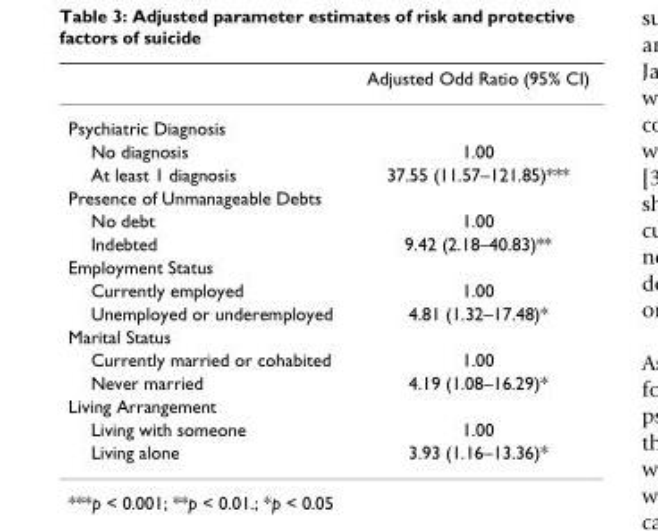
<table><thead><tr><td></td><td>Adjusted Odd Ratio (95% CI)</td></tr></thead><tbody><tr><td colspan="2">Psychiatric Diagnosis</td></tr><tr><td>No diagnosis</td><td>1.00</td></tr><tr><td>At least 1 diagnosis</td><td>37.55 (11.57–121.85)***</td></tr><tr><td colspan="2">Presence of Unmanageable Debts</td></tr><tr><td>No debt</td><td>1.00</td></tr><tr><td>Indebted</td><td>9.42 (2.18–40.83)**</td></tr><tr><td colspan="2">Employment Status</td></tr><tr><td>Currently employed</td><td>1.00</td></tr><tr><td>Unemployed or underemployed</td><td>4.81 (1.32–17.48)*</td></tr><tr><td colspan="2">Marital Status</td></tr><tr><td>Currently married or cohabited</td><td>1.00</td></tr><tr><td>Never married</td><td>4.19 (1.08–16.29)*</td></tr><tr><td colspan="2">Living Arrangement</td></tr><tr><td>Living with someone</td><td>1.00</td></tr><tr><td>Living alone</td><td>3.93 (1.16–13.36)*</td></tr></tbody></table>